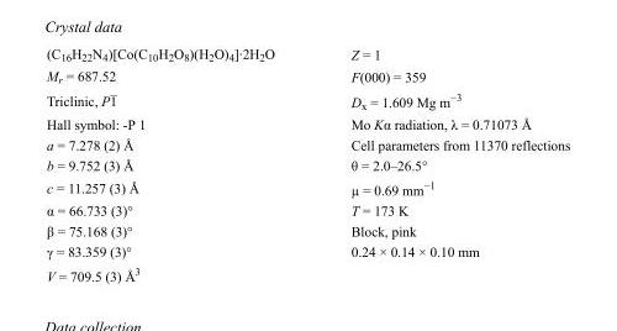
<table><tbody><tr><td>(C<sub>16</sub>H<sub>22</sub>N<sub>4</sub>)[Co(C<sub>10</sub>H<sub>2</sub>O<sub>8</sub>)(H<sub>2</sub>O)<sub>4</sub>]·2H<sub>2</sub>O</td><td>Z = 1</td></tr><tr><td>M<sub>r</sub> = 687.52</td><td>F(000) = 359</td></tr><tr><td>Triclinic, P1</td><td>D<sub>x</sub> = 1.609 Mg m<sup>−3</sup></td></tr><tr><td>Hall symbol: -P 1</td><td>Mo Kα radiation, λ = 0.71073 Å</td></tr><tr><td>a = 7.278 (2) Å</td><td>Cell parameters from 11370 reflections</td></tr><tr><td>b = 9.752 (3) Å</td><td>θ = 2.0–26.5°</td></tr><tr><td>c = 11.257 (3) Å</td><td>µ = 0.69 mm<sup>−1</sup></td></tr><tr><td>α = 66.733 (3)°</td><td>T = 173 K</td></tr><tr><td>β = 75.168 (3)°</td><td>Block, pink</td></tr><tr><td>γ = 83.359 (3)°</td><td>0.24 × 0.14 × 0.10 mm</td></tr><tr><td>V = 709.5 (3) Å<sup>3</sup></td><td></td></tr></tbody></table>